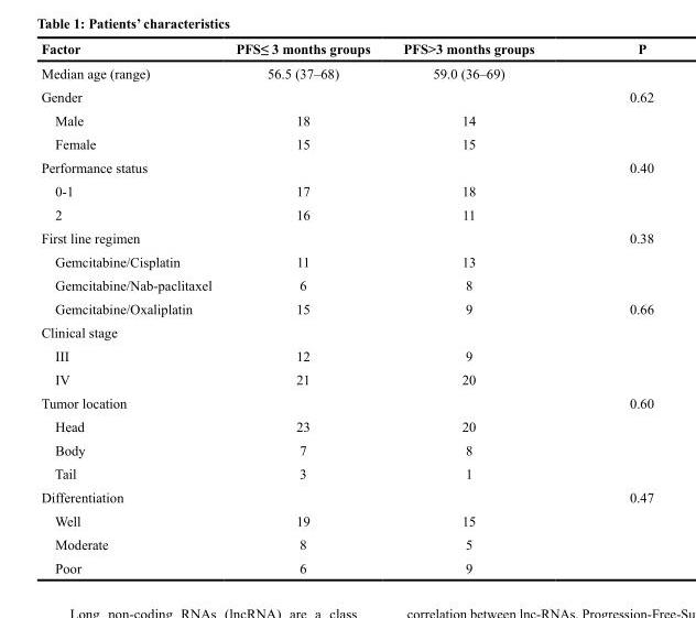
<table><thead><tr><td>Factor</td><td>PFS≤ 3 months groups</td><td>PFS&gt;3 months groups</td><td>P</td></tr></thead><tbody><tr><td>Median age (range)</td><td>56.5 (37–68)</td><td>59.0 (36–69)</td><td></td></tr><tr><td>Gender</td><td></td><td></td><td>0.62</td></tr><tr><td>Male</td><td>18</td><td>14</td><td></td></tr><tr><td>Female</td><td>15</td><td>15</td><td></td></tr><tr><td>Performance status</td><td></td><td></td><td>0.40</td></tr><tr><td>0-1</td><td>17</td><td>18</td><td></td></tr><tr><td>2</td><td>16</td><td>11</td><td></td></tr><tr><td>First line regimen</td><td></td><td></td><td>0.38</td></tr><tr><td>Gemcitabine/Cisplatin</td><td>11</td><td>13</td><td></td></tr><tr><td>Gemcitabine/Nab-paclitaxel</td><td>6</td><td>8</td><td></td></tr><tr><td>Gemcitabine/Oxaliplatin</td><td>15</td><td>9</td><td>0.66</td></tr><tr><td colspan="4">Clinical stage</td></tr><tr><td>III</td><td>12</td><td>9</td><td></td></tr><tr><td>IV</td><td>21</td><td>20</td><td></td></tr><tr><td>Tumor location</td><td></td><td></td><td>0.60</td></tr><tr><td>Head</td><td>23</td><td>20</td><td></td></tr><tr><td>Body</td><td>7</td><td>8</td><td></td></tr><tr><td>Tail</td><td>3</td><td>1</td><td></td></tr><tr><td>Differentiation</td><td></td><td></td><td>0.47</td></tr><tr><td>Well</td><td>19</td><td>15</td><td></td></tr><tr><td>Moderate</td><td>8</td><td>5</td><td></td></tr><tr><td>Poor</td><td>6</td><td>9</td><td></td></tr></tbody></table>